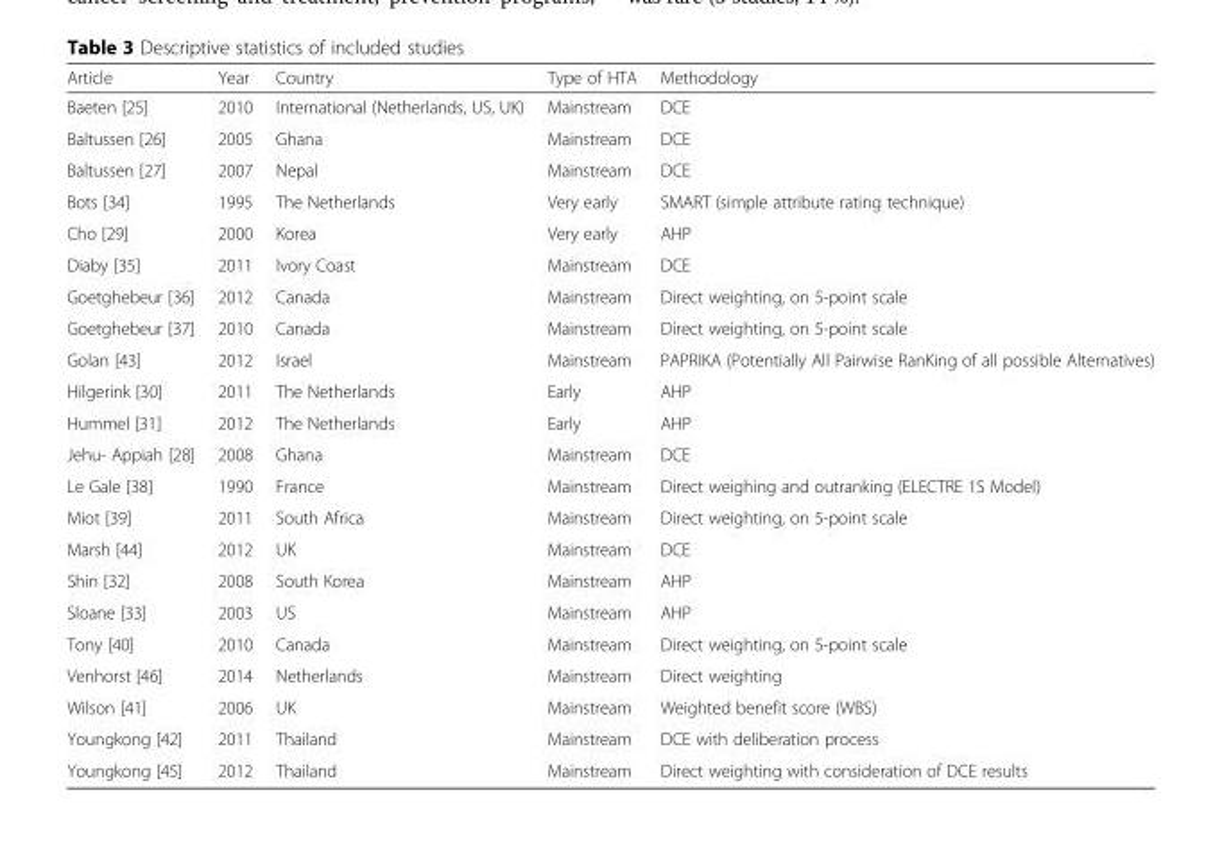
<table><thead><tr><td>Article</td><td>Year</td><td>Country</td><td>Type of HTA</td><td>Methodology</td></tr></thead><tbody><tr><td>Baeten [25]</td><td>2010</td><td>International (Netherlands, US, UK)</td><td>Mainstream</td><td>DCE</td></tr><tr><td>Baltussen [26]</td><td>2005</td><td>Ghana</td><td>Mainstream</td><td>DCE</td></tr><tr><td>Baltussen [27]</td><td>2007</td><td>Nepal</td><td>Mainstream</td><td>DCE</td></tr><tr><td>Bots [34]</td><td>1995</td><td>The Netherlands</td><td>Very early</td><td>SMART (simple attribute rating technique)</td></tr><tr><td>Cho [29]</td><td>2000</td><td>Korea</td><td>Very early</td><td>AHP</td></tr><tr><td>Diaby [35]</td><td>2011</td><td>Ivory Coast</td><td>Mainstream</td><td>DCE</td></tr><tr><td>Goetghebeur [36]</td><td>2012</td><td>Canada</td><td>Mainstream</td><td>Direct weighting, on 5-point scale</td></tr><tr><td>Goetghebeur [37]</td><td>2010</td><td>Canada</td><td>Mainstream</td><td>Direct weighting, on 5-point scale</td></tr><tr><td>Golan [43]</td><td>2012</td><td>Israel</td><td>Mainstream</td><td>PAPRIKA (Potentially All Pairwise RanKing of all possible Alternatives)</td></tr><tr><td>Hilgerink [30]</td><td>2011</td><td>The Netherlands</td><td>Early</td><td>AHP</td></tr><tr><td>Hummel [31]</td><td>2012</td><td>The Netherlands</td><td>Early</td><td>AHP</td></tr><tr><td>Jehu- Appiah [28]</td><td>2008</td><td>Ghana</td><td>Mainstream</td><td>DCE</td></tr><tr><td>Le Gale [38]</td><td>1990</td><td>France</td><td>Mainstream</td><td>Direct weighing and outranking (ELECTRE 1S Model)</td></tr><tr><td>Miot [39]</td><td>2011</td><td>South Africa</td><td>Mainstream</td><td>Direct weighting, on 5-point scale</td></tr><tr><td>Marsh [44]</td><td>2012</td><td>UK</td><td>Mainstream</td><td>DCE</td></tr><tr><td>Shin [32]</td><td>2008</td><td>South Korea</td><td>Mainstream</td><td>AHP</td></tr><tr><td>Sloane [33]</td><td>2003</td><td>US</td><td>Mainstream</td><td>AHP</td></tr><tr><td>Tony [40]</td><td>2010</td><td>Canada</td><td>Mainstream</td><td>Direct weighting, on 5-point scale</td></tr><tr><td>Venhorst [46]</td><td>2014</td><td>Netherlands</td><td>Mainstream</td><td>Direct weighting</td></tr><tr><td>Wilson [41]</td><td>2006</td><td>UK</td><td>Mainstream</td><td>Weighted benefit score (WBS)</td></tr><tr><td>Youngkong [42]</td><td>2011</td><td>Thailand</td><td>Mainstream</td><td>DCE with deliberation process</td></tr><tr><td>Youngkong [45]</td><td>2012</td><td>Thailand</td><td>Mainstream</td><td>Direct weighting with consideration of DCE results</td></tr></tbody></table>